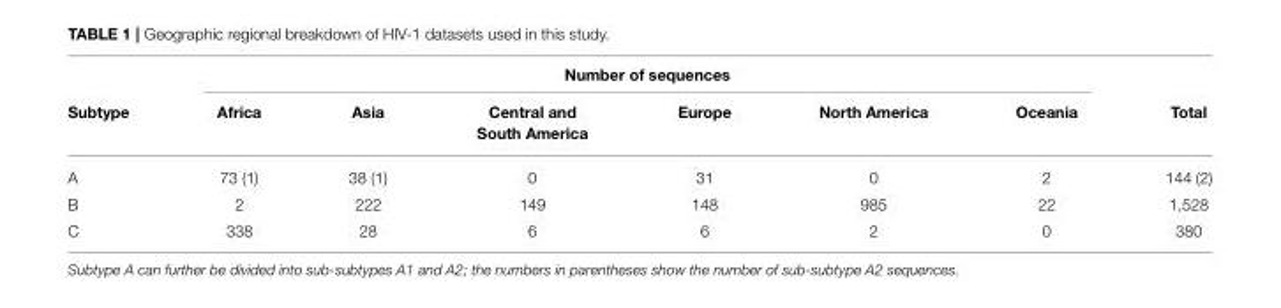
<table><thead><tr><td rowspan="2">Subtype</td><td colspan="6">Number of sequences</td><td rowspan="2">Total</td></tr><tr><td>Africa</td><td>Asia</td><td>Central and South America</td><td>Europe</td><td>North America</td><td>Oceania</td></tr></thead><tbody><tr><td>A</td><td>73 (1)</td><td>38 (1)</td><td>0</td><td>31</td><td>0</td><td>2</td><td>144 (2)</td></tr><tr><td>B</td><td>2</td><td>222</td><td>149</td><td>148</td><td>985</td><td>22</td><td>1,528</td></tr><tr><td>C</td><td>338</td><td>28</td><td>6</td><td>6</td><td>2</td><td>0</td><td>380</td></tr></tbody></table>